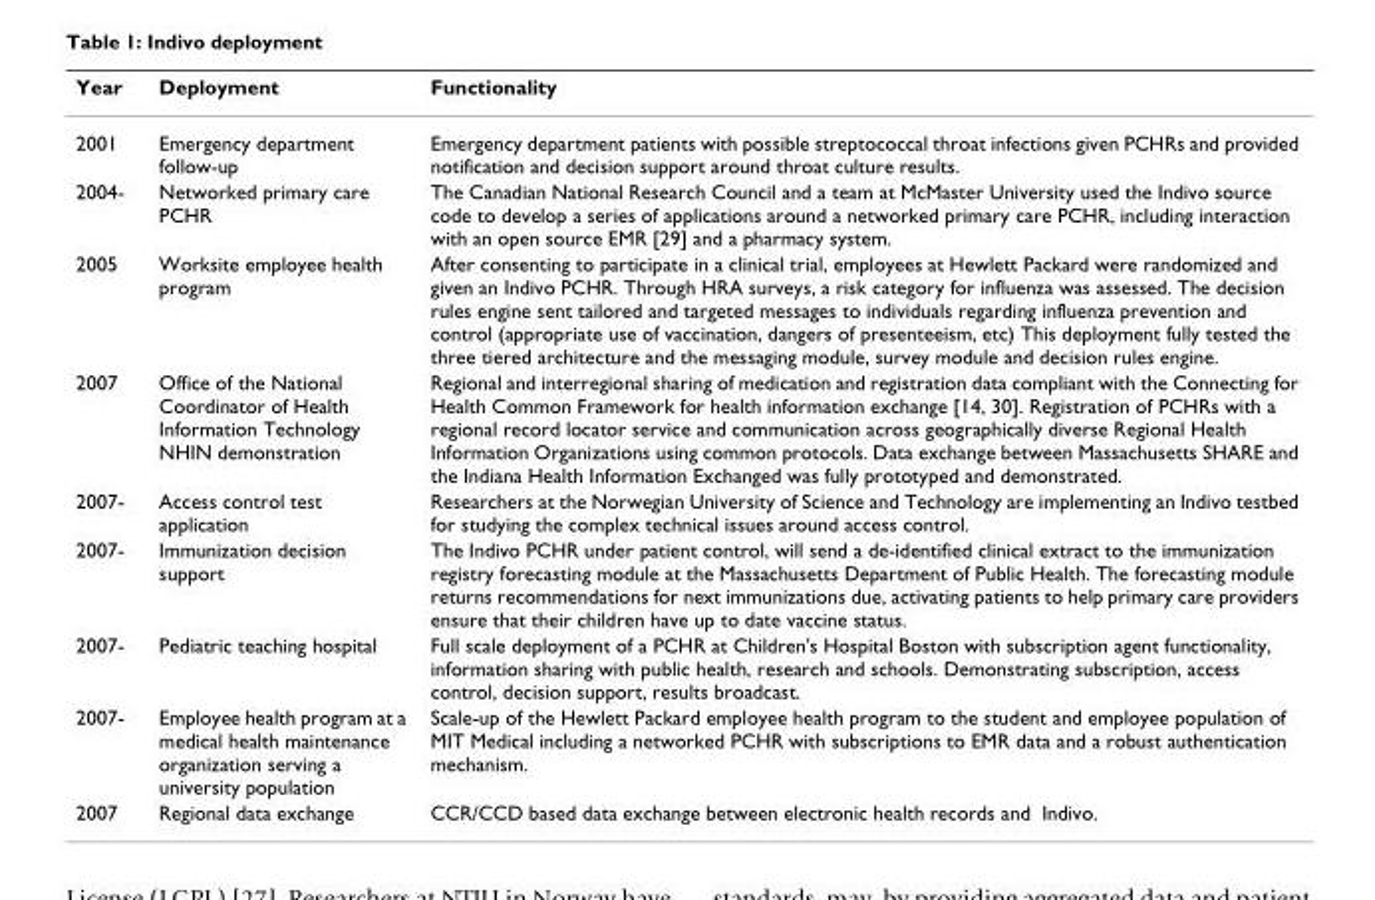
<table><thead><tr><td>Year</td><td>Deployment</td><td>Functionality</td></tr></thead><tbody><tr><td>2001</td><td>Emergency department follow-up</td><td>Emergency department patients with possible streptococcal throat infections given PCHRs and provided notification and decision support around throat culture results.</td></tr><tr><td>2004-</td><td>Networked primary care PCHR</td><td>The Canadian National Research Council and a team at McMaster University used the Indivo source code to develop a series of applications around a networked primary care PCHR, including interaction with an open source EMR [29] and a pharmacy system.</td></tr><tr><td>2005</td><td>Worksite employee health program</td><td>After consenting to participate in a clinical trial, employees at Hewlett Packard were randomized and given an Indivo PCHR. Through HRA surveys, a risk category for influenza was assessed. The decision rules engine sent tailored and targeted messages to individuals regarding influenza prevention and control (appropriate use of vaccination, dangers of presenteeism, etc) This deployment fully tested the three tiered architecture and the messaging module, survey module and decision rules engine.</td></tr><tr><td>2007</td><td>Office of the National Coordinator of Health Information Technology NHIN demonstration</td><td>Regional and interregional sharing of medication and registration data compliant with the Connecting for Health Common Framework for health information exchange [14, 30]. Registration of PCHRs with a regional record locator service and communication across geographically diverse Regional Health Information Organizations using common protocols. Data exchange between Massachusetts SHARE and the Indiana Health Information Exchanged was fully prototyped and demonstrated.</td></tr><tr><td>2007-</td><td>Access control test application</td><td>Researchers at the Norwegian University of Science and Technology are implementing an Indivo testbed for studying the complex technical issues around access control.</td></tr><tr><td>2007-</td><td>Immunization decision support</td><td>The Indivo PCHR under patient control, will send a de-identified clinical extract to the immunization registry forecasting module at the Massachusetts Department of Public Health. The forecasting module returns recommendations for next immunizations due, activating patients to help primary care providers ensure that their children have up to date vaccine status.</td></tr><tr><td>2007-</td><td>Pediatric teaching hospital</td><td>Full scale deployment of a PCHR at Children&#x27;s Hospital Boston with subscription agent functionality, information sharing with public health, research and schools. Demonstrating subscription, access control, decision support, results broadcast.</td></tr><tr><td>2007-</td><td>Employee health program at a medical health maintenance organization serving a university population</td><td>Scale-up of the Hewlett Packard employee health program to the student and employee population of MIT Medical including a networked PCHR with subscriptions to EMR data and a robust authentication mechanism.</td></tr><tr><td>2007</td><td>Regional data exchange</td><td>CCR/CCD based data exchange between electronic health records and Indivo.</td></tr></tbody></table>